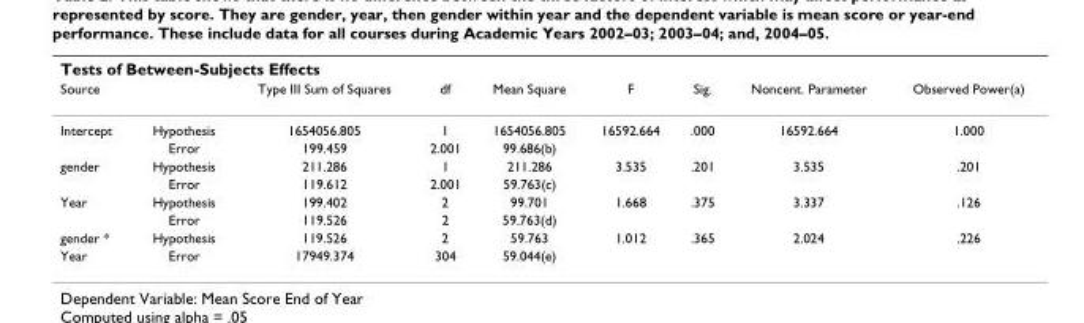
<table><thead><tr><td colspan="9">Tests of Between-Subjects Effects</td></tr><tr><td>Source</td><td></td><td>Type III Sum of Squares</td><td>df</td><td>Mean Square</td><td>F</td><td>Sig.</td><td>Noncent. Parameter</td><td>Observed Power(a)</td></tr></thead><tbody><tr><td rowspan="2">Intercept</td><td>Hypothesis</td><td>1654056.805</td><td>1</td><td>1654056.805</td><td>16592.664</td><td>.000</td><td>16592.664</td><td>1.000</td></tr><tr><td>Error</td><td>199.459</td><td>2.001</td><td>99.686(b)</td><td></td><td></td><td></td><td></td></tr><tr><td rowspan="2">gender</td><td>Hypothesis</td><td>211.286</td><td>1</td><td>211.286</td><td>3.535</td><td>.201</td><td>3.535</td><td>.201</td></tr><tr><td>Error</td><td>119.612</td><td>2.001</td><td>59.763(c)</td><td></td><td></td><td></td><td></td></tr><tr><td rowspan="2">Year</td><td>Hypothesis</td><td>199.402</td><td>2</td><td>99.701</td><td>1.668</td><td>.375</td><td>3.337</td><td>.126</td></tr><tr><td>Error</td><td>119.526</td><td>2</td><td>59.763(d)</td><td></td><td></td><td></td><td></td></tr><tr><td>gender *</td><td>Hypothesis</td><td>119.526</td><td>2</td><td>59.763</td><td>1.012</td><td>.365</td><td>2.024</td><td>.226</td></tr><tr><td>Year</td><td>Error</td><td>17949.374</td><td>304</td><td>59.044(e)</td><td></td><td></td><td></td><td></td></tr></tbody></table>